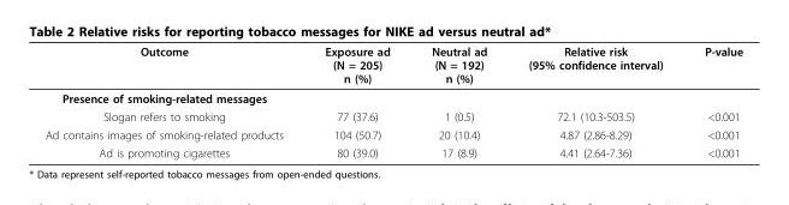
<table><thead><tr><td>Outcome</td><td>Exposure ad (N = 205) n (%)</td><td>Neutral ad (N = 192) n (%)</td><td>Relative risk (95% confidence interval)</td><td>P-value</td></tr></thead><tbody><tr><td colspan="5">Presence of smoking-related messages</td></tr><tr><td>Slogan refers to smoking</td><td>77 (37.6)</td><td>1 (0.5)</td><td>72.1 (10.3-503.5)</td><td>&lt;0.001</td></tr><tr><td>Ad contains images of smoking-related products</td><td>104 (50.7)</td><td>20 (10.4)</td><td>4.87 (2.86-8.29)</td><td>&lt;0.001</td></tr><tr><td>Ad is promoting cigarettes</td><td>80 (39.0)</td><td>17 (8.9)</td><td>4.41 (2.64-7.36)</td><td>&lt;0.001</td></tr></tbody></table>